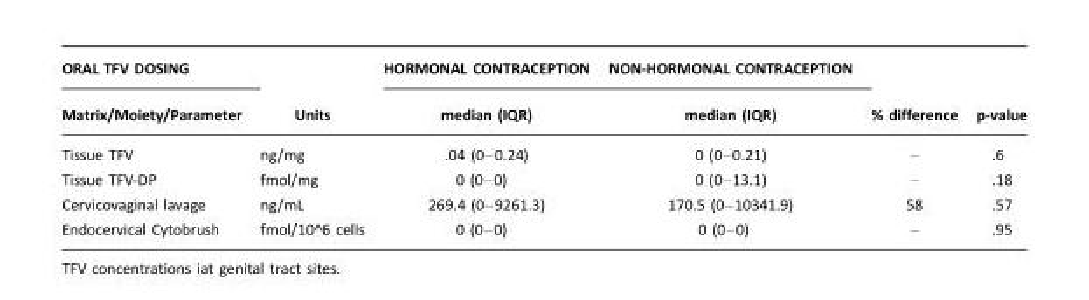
<table><thead><tr><td rowspan="2">ORAL TFV DOSING Matrix/Moiety/Parameter</td><td rowspan="2">Units</td><td rowspan="2">HORMONAL CONTRACEPTION median (IQR)</td><td rowspan="2">NON-HORMONAL CONTRACEPTION median (IQR)</td><td rowspan="2">% difference</td><td rowspan="2">p-value</td></tr><tr></tr></thead><tbody><tr><td>Tissue TFV</td><td>ng/mg</td><td>.04 (0–0.24)</td><td>0 (0–0.21)</td><td>–</td><td>.6</td></tr><tr><td>Tissue TFV-DP</td><td>fmol/mg</td><td>0 (0–0)</td><td>0 (0–13.1)</td><td>–</td><td>.18</td></tr><tr><td>Cervicovaginal lavage</td><td>ng/mL</td><td>269.4 (0–9261.3)</td><td>170.5 (0–10341.9)</td><td>58</td><td>.57</td></tr><tr><td>Endocervical Cytobrush</td><td>fmol/10^6 cells</td><td>0 (0–0)</td><td>0 (0–0)</td><td>–</td><td>.95</td></tr></tbody></table>